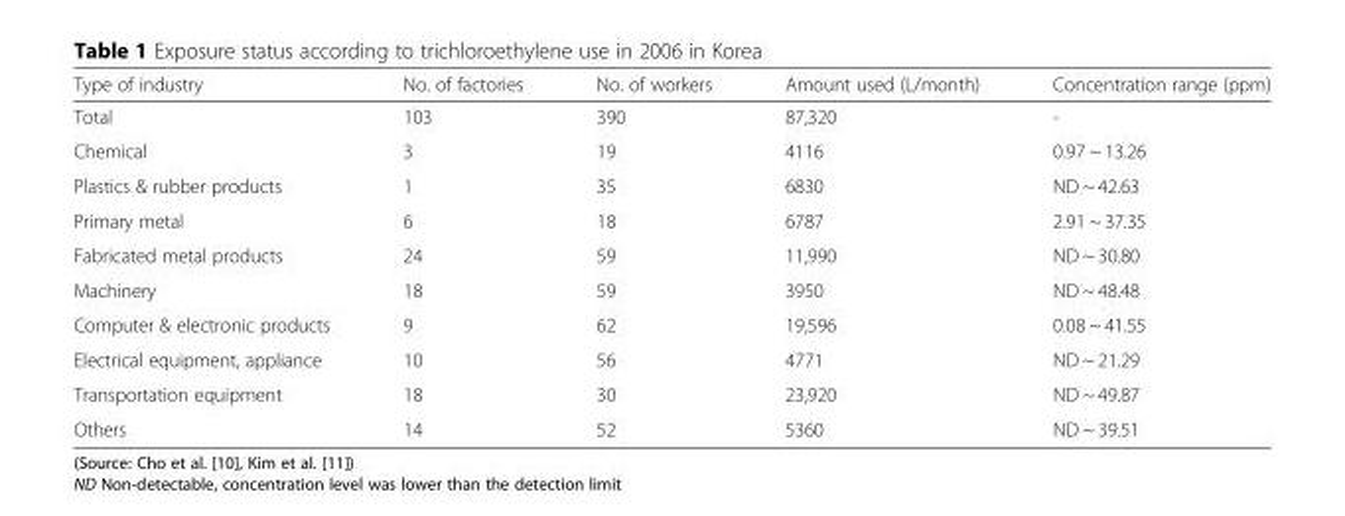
<table><thead><tr><td>Type of industry</td><td>No. of factories</td><td>No. of workers</td><td>Amount used (L/month)</td><td>Concentration range (ppm)</td></tr></thead><tbody><tr><td>Total</td><td>103</td><td>390</td><td>87,320</td><td>-</td></tr><tr><td>Chemical</td><td>3</td><td>19</td><td>4116</td><td>0.97 ~ 13.26</td></tr><tr><td>Plastics &amp; rubber products</td><td>1</td><td>35</td><td>6830</td><td>ND ~ 42.63</td></tr><tr><td>Primary metal</td><td>6</td><td>18</td><td>6787</td><td>2.91 ~ 37.35</td></tr><tr><td>Fabricated metal products</td><td>24</td><td>59</td><td>11,990</td><td>ND ~ 30.80</td></tr><tr><td>Machinery</td><td>18</td><td>59</td><td>3950</td><td>ND ~ 48.48</td></tr><tr><td>Computer &amp; electronic products</td><td>9</td><td>62</td><td>19,596</td><td>0.08 ~ 41.55</td></tr><tr><td>Electrical equipment, appliance</td><td>10</td><td>56</td><td>4771</td><td>ND ~ 21.29</td></tr><tr><td>Transportation equipment</td><td>18</td><td>30</td><td>23,920</td><td>ND ~ 49.87</td></tr><tr><td>Others</td><td>14</td><td>52</td><td>5360</td><td>ND ~ 39.51</td></tr></tbody></table>